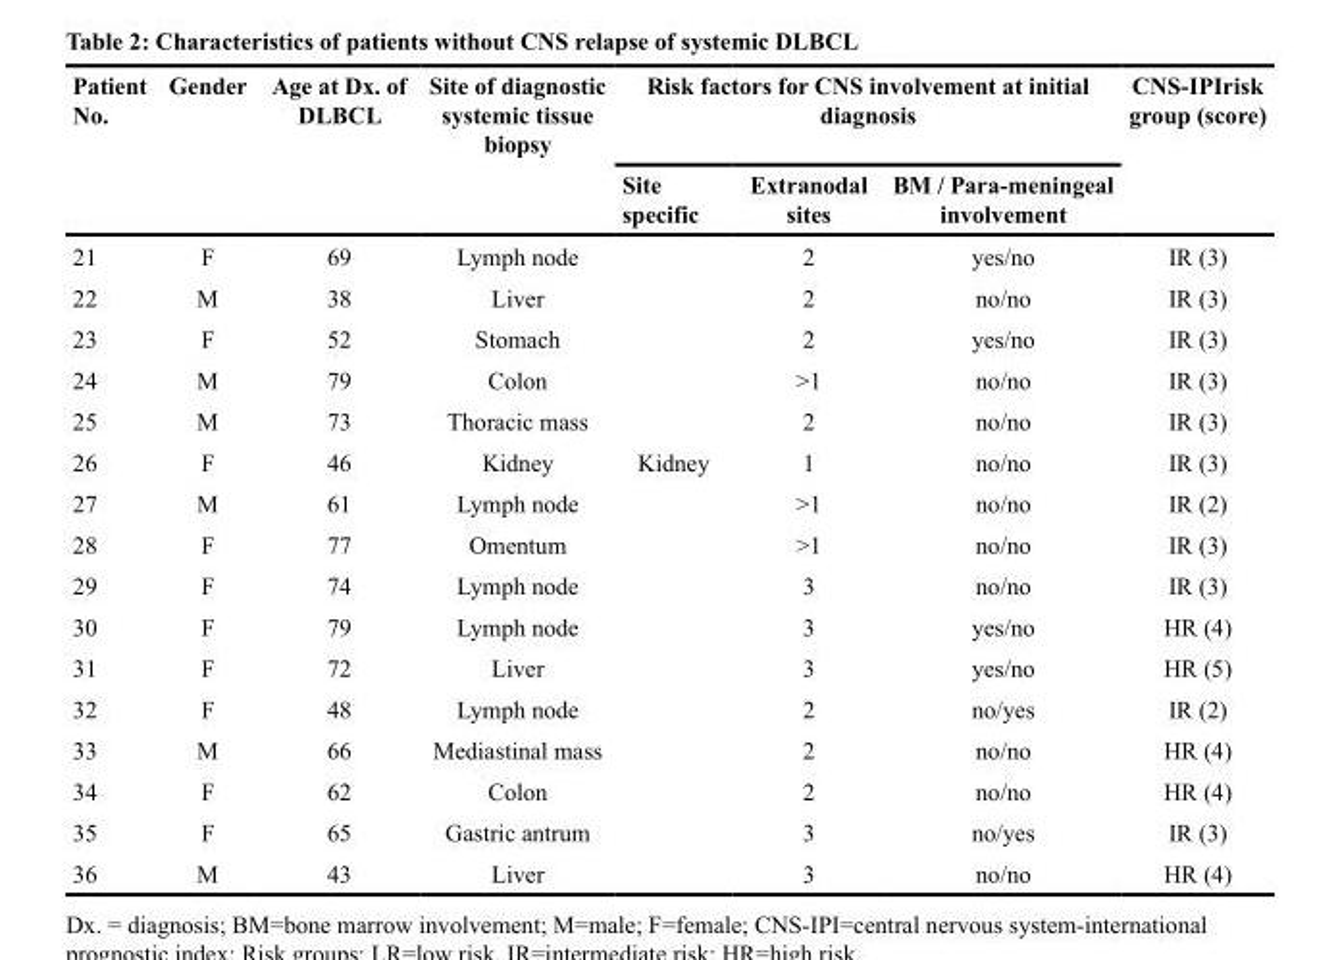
<table><thead><tr><td rowspan="2">Patient No.</td><td rowspan="2">Gender</td><td rowspan="2">Age at Dx. of DLBCL</td><td rowspan="2">Site of diagnostic systemic tissue biopsy</td><td colspan="3">Risk factors for CNS involvement at initial diagnosis</td><td rowspan="2">CNS-IPIrisk group (score)</td></tr><tr><td>Site specific</td><td>Extranodal sites</td><td>BM / Para-meningeal involvement</td></tr></thead><tbody><tr><td>21</td><td>F</td><td>69</td><td>Lymph node</td><td></td><td>2</td><td>yes/no</td><td>IR (3)</td></tr><tr><td>22</td><td>M</td><td>38</td><td>Liver</td><td></td><td>2</td><td>no/no</td><td>IR (3)</td></tr><tr><td>23</td><td>F</td><td>52</td><td>Stomach</td><td></td><td>2</td><td>yes/no</td><td>IR (3)</td></tr><tr><td>24</td><td>M</td><td>79</td><td>Colon</td><td></td><td>&gt;1</td><td>no/no</td><td>IR (3)</td></tr><tr><td>25</td><td>M</td><td>73</td><td>Thoracic mass</td><td></td><td>2</td><td>no/no</td><td>IR (3)</td></tr><tr><td>26</td><td>F</td><td>46</td><td>Kidney</td><td>Kidney</td><td>1</td><td>no/no</td><td>IR (3)</td></tr><tr><td>27</td><td>M</td><td>61</td><td>Lymph node</td><td></td><td>&gt;1</td><td>no/no</td><td>IR (2)</td></tr><tr><td>28</td><td>F</td><td>77</td><td>Omentum</td><td></td><td>&gt;1</td><td>no/no</td><td>IR (3)</td></tr><tr><td>29</td><td>F</td><td>74</td><td>Lymph node</td><td></td><td>3</td><td>no/no</td><td>IR (3)</td></tr><tr><td>30</td><td>F</td><td>79</td><td>Lymph node</td><td></td><td>3</td><td>yes/no</td><td>HR (4)</td></tr><tr><td>31</td><td>F</td><td>72</td><td>Liver</td><td></td><td>3</td><td>yes/no</td><td>HR (5)</td></tr><tr><td>32</td><td>F</td><td>48</td><td>Lymph node</td><td></td><td>2</td><td>no/yes</td><td>IR (2)</td></tr><tr><td>33</td><td>M</td><td>66</td><td>Mediastinal mass</td><td></td><td>2</td><td>no/no</td><td>HR (4)</td></tr><tr><td>34</td><td>F</td><td>62</td><td>Colon</td><td></td><td>2</td><td>no/no</td><td>HR (4)</td></tr><tr><td>35</td><td>F</td><td>65</td><td>Gastric antrum</td><td></td><td>3</td><td>no/yes</td><td>IR (3)</td></tr><tr><td>36</td><td>M</td><td>43</td><td>Liver</td><td></td><td>3</td><td>no/no</td><td>HR (4)</td></tr></tbody></table>